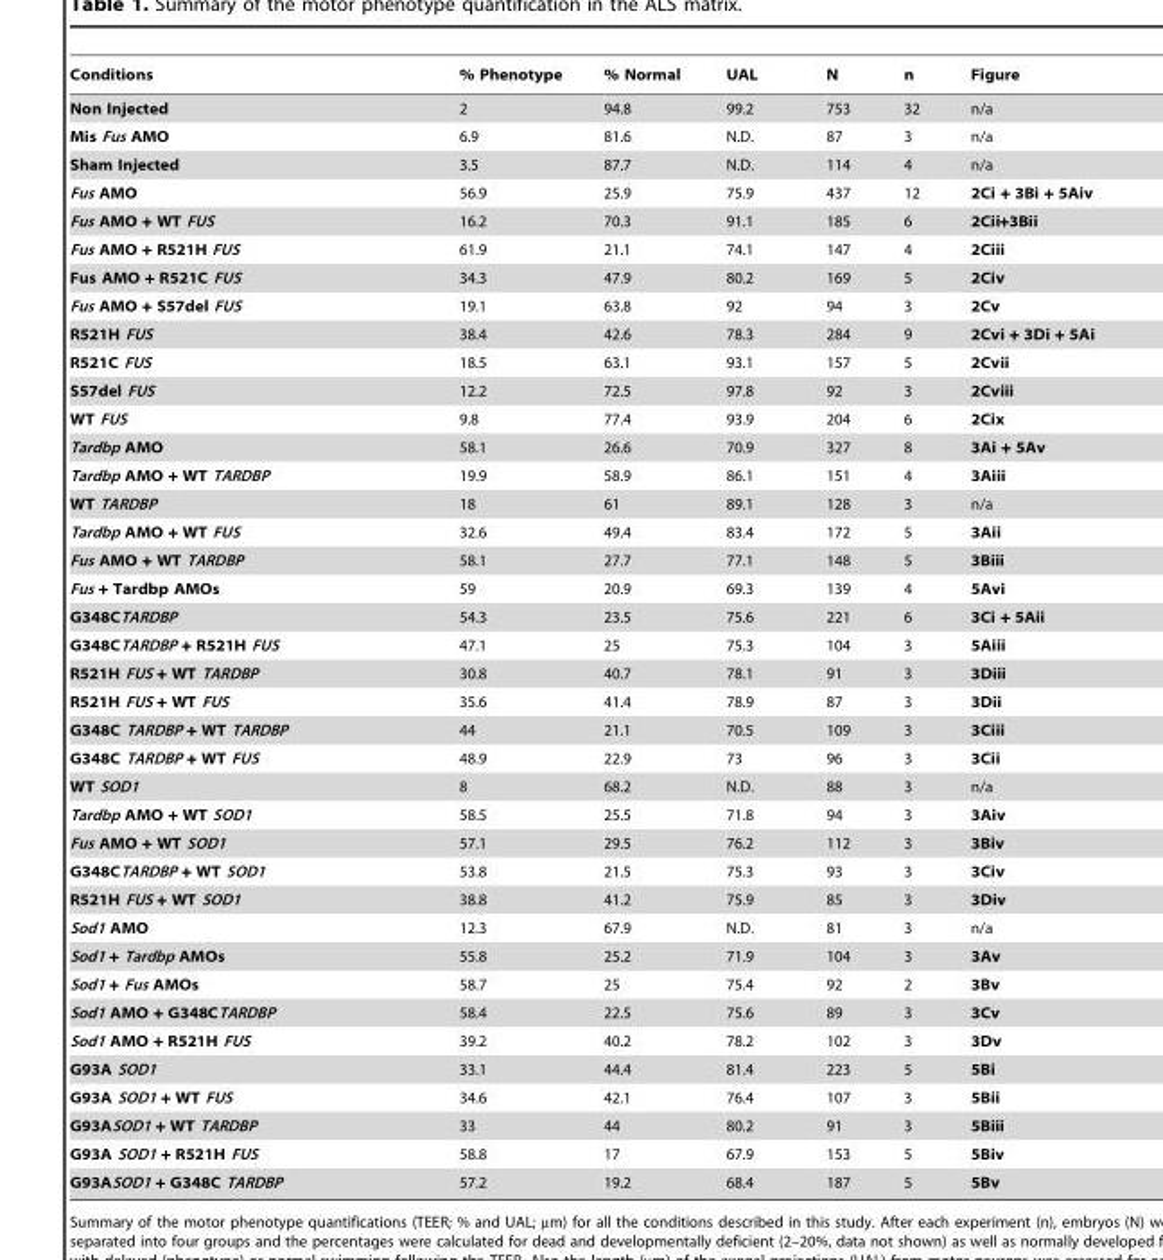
<table><thead><tr><td>Conditions</td><td>% Phenotype</td><td>% Normal</td><td>UAL</td><td>N</td><td>n</td><td>Figure</td></tr></thead><tbody><tr><td>Non Injected</td><td>2</td><td>94.8</td><td>99.2</td><td>753</td><td>32</td><td>n/a</td></tr><tr><td>Mis Fus AMO</td><td>6.9</td><td>81.6</td><td>N.D.</td><td>87</td><td>3</td><td>n/a</td></tr><tr><td>Sham Injected</td><td>3.5</td><td>87.7</td><td>N.D.</td><td>114</td><td>4</td><td>n/a</td></tr><tr><td>Fus AMO</td><td>56.9</td><td>25.9</td><td>75.9</td><td>437</td><td>12</td><td>2Ci + 3Bi + 5Aiv</td></tr><tr><td>Fus AMO + WT FUS</td><td>16.2</td><td>70.3</td><td>91.1</td><td>185</td><td>6</td><td>2Cii+3Bii</td></tr><tr><td>Fus AMO + R521H FUS</td><td>61.9</td><td>21.1</td><td>74.1</td><td>147</td><td>4</td><td>2Ciii</td></tr><tr><td>Fus AMO + R521C FUS</td><td>34.3</td><td>47.9</td><td>80.2</td><td>169</td><td>5</td><td>2Civ</td></tr><tr><td>Fus AMO + S57del FUS</td><td>19.1</td><td>63.8</td><td>92</td><td>94</td><td>3</td><td>2Cv</td></tr><tr><td>R521H FUS</td><td>38.4</td><td>42.6</td><td>78.3</td><td>284</td><td>9</td><td>2Cvi + 3Di + 5Ai</td></tr><tr><td>R521C FUS</td><td>18.5</td><td>63.1</td><td>93.1</td><td>157</td><td>5</td><td>2Cvii</td></tr><tr><td>S57del FUS</td><td>12.2</td><td>72.5</td><td>97.8</td><td>92</td><td>3</td><td>2Cviii</td></tr><tr><td>WT FUS</td><td>9.8</td><td>77.4</td><td>93.9</td><td>204</td><td>6</td><td>2Cix</td></tr><tr><td>Tardbp AMO</td><td>58.1</td><td>26.6</td><td>70.9</td><td>327</td><td>8</td><td>3Ai + 5Av</td></tr><tr><td>Tardbp AMO + WT TARDBP</td><td>19.9</td><td>58.9</td><td>86.1</td><td>151</td><td>4</td><td>3Aiii</td></tr><tr><td>WT TARDBP</td><td>18</td><td>61</td><td>89.1</td><td>128</td><td>3</td><td>n/a</td></tr><tr><td>Tardbp AMO + WT FUS</td><td>32.6</td><td>49.4</td><td>83.4</td><td>172</td><td>5</td><td>3Aii</td></tr><tr><td>Fus AMO + WT TARDBP</td><td>58.1</td><td>27.7</td><td>77.1</td><td>148</td><td>5</td><td>3Biii</td></tr><tr><td>Fus + Tardbp AMOs</td><td>59</td><td>20.9</td><td>69.3</td><td>139</td><td>4</td><td>5Avi</td></tr><tr><td>G348CTARDBP</td><td>54.3</td><td>23.5</td><td>75.6</td><td>221</td><td>6</td><td>3Ci + 5Aii</td></tr><tr><td>G348CTARDBP + R521H FUS</td><td>47.1</td><td>25</td><td>75.3</td><td>104</td><td>3</td><td>5Aiii</td></tr><tr><td>R521H FUS + WT TARDBP</td><td>30.8</td><td>40.7</td><td>78.1</td><td>91</td><td>3</td><td>3Diii</td></tr><tr><td>R521H FUS + WT FUS</td><td>35.6</td><td>41.4</td><td>78.9</td><td>87</td><td>3</td><td>3Dii</td></tr><tr><td>G348C TARDBP + WT TARDBP</td><td>44</td><td>21.1</td><td>70.5</td><td>109</td><td>3</td><td>3Ciii</td></tr><tr><td>G348C TARDBP + WT FUS</td><td>48.9</td><td>22.9</td><td>73</td><td>96</td><td>3</td><td>3Cii</td></tr><tr><td>WT SOD1</td><td>8</td><td>68.2</td><td>N.D.</td><td>88</td><td>3</td><td>n/a</td></tr><tr><td>Tardbp AMO + WT SOD1</td><td>58.5</td><td>25.5</td><td>71.8</td><td>94</td><td>3</td><td>3Aiv</td></tr><tr><td>Fus AMO + WT SOD1</td><td>57.1</td><td>29.5</td><td>76.2</td><td>112</td><td>3</td><td>3Biv</td></tr><tr><td>G348CTARDBP + WT SOD1</td><td>53.8</td><td>21.5</td><td>75.3</td><td>93</td><td>3</td><td>3Civ</td></tr><tr><td>R521H FUS + WT SOD1</td><td>38.8</td><td>41.2</td><td>75.9</td><td>85</td><td>3</td><td>3Div</td></tr><tr><td>Sod1 AMO</td><td>12.3</td><td>67.9</td><td>N.D.</td><td>81</td><td>3</td><td>n/a</td></tr><tr><td>Sod1 + Tardbp AMOs</td><td>55.8</td><td>25.2</td><td>71.9</td><td>104</td><td>3</td><td>3Av</td></tr><tr><td>Sod1 + Fus AMOs</td><td>58.7</td><td>25</td><td>75.4</td><td>92</td><td>2</td><td>3Bv</td></tr><tr><td>Sod1 AMO + G348CTARDBP</td><td>58.4</td><td>22.5</td><td>75.6</td><td>89</td><td>3</td><td>3Cv</td></tr><tr><td>Sod1 AMO + R521H FUS</td><td>39.2</td><td>40.2</td><td>78.2</td><td>102</td><td>3</td><td>3Dv</td></tr><tr><td>G93A SOD1</td><td>33.1</td><td>44.4</td><td>81.4</td><td>223</td><td>5</td><td>5Bi</td></tr><tr><td>G93A SOD1 + WT FUS</td><td>34.6</td><td>42.1</td><td>76.4</td><td>107</td><td>3</td><td>5Bii</td></tr><tr><td>G93ASOD1 + WT TARDBP</td><td>33</td><td>44</td><td>80.2</td><td>91</td><td>3</td><td>5Biii</td></tr><tr><td>G93A SOD1 + R521H FUS</td><td>58.8</td><td>17</td><td>67.9</td><td>153</td><td>5</td><td>5Biv</td></tr><tr><td>G93ASOD1 + G348C TARDBP</td><td>57.2</td><td>19.2</td><td>68.4</td><td>187</td><td>5</td><td>5Bv</td></tr></tbody></table>